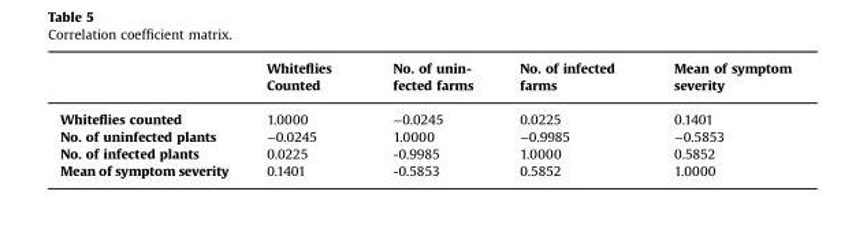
<table><thead><tr><td></td><td>Whiteflies Counted</td><td>No. of unin- fected farms</td><td>No. of infected farms</td><td>Mean of symptom severity</td></tr></thead><tbody><tr><td>Whiteflies counted</td><td>1.0000</td><td>−0.0245</td><td>0.0225</td><td>0.1401</td></tr><tr><td>No. of uninfected plants</td><td>−0.0245</td><td>1.0000</td><td>−0.9985</td><td>−0.5853</td></tr><tr><td>No. of infected plants</td><td>0.0225</td><td>-0.9985</td><td>1.0000</td><td>0.5852</td></tr><tr><td>Mean of symptom severity</td><td>0.1401</td><td>-0.5853</td><td>0.5852</td><td>1.0000</td></tr></tbody></table>